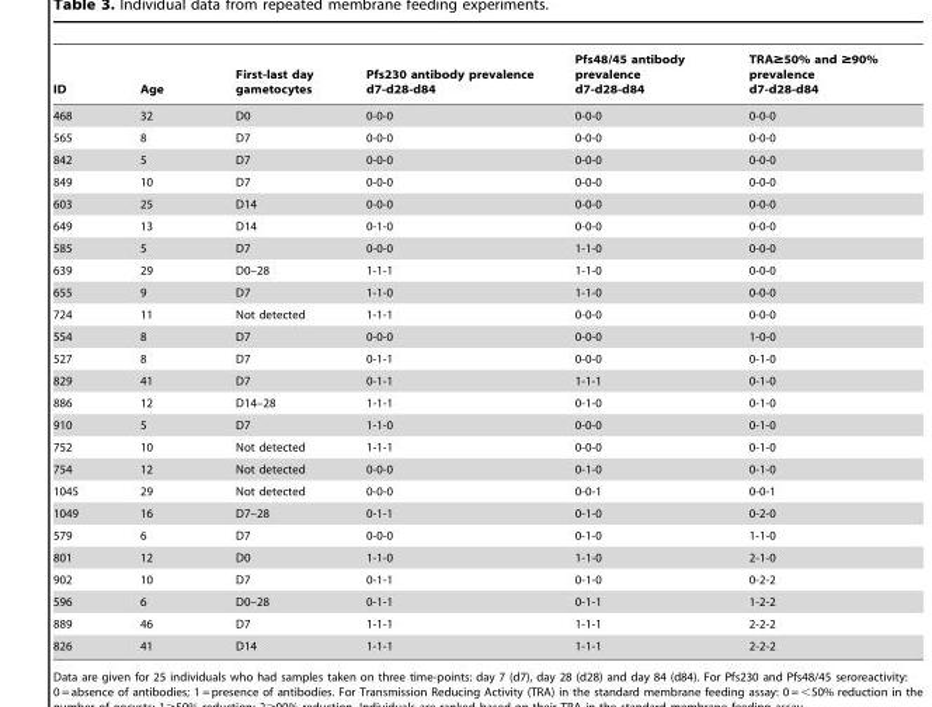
<table><thead><tr><td>ID</td><td>Age</td><td>First-last day gametocytes</td><td>Pfs230 antibody prevalence d7-d28-d84</td><td>Pfs48/45 antibody prevalence d7-d28-d84</td><td>TRA≥50% and ≥90% prevalence d7-d28-d84</td></tr></thead><tbody><tr><td>468</td><td>32</td><td>D0</td><td>0-0-0</td><td>0-0-0</td><td>0-0-0</td></tr><tr><td>565</td><td>8</td><td>D7</td><td>0-0-0</td><td>0-0-0</td><td>0-0-0</td></tr><tr><td>842</td><td>5</td><td>D7</td><td>0-0-0</td><td>0-0-0</td><td>0-0-0</td></tr><tr><td>849</td><td>10</td><td>D7</td><td>0-0-0</td><td>0-0-0</td><td>0-0-0</td></tr><tr><td>603</td><td>25</td><td>D14</td><td>0-0-0</td><td>0-0-0</td><td>0-0-0</td></tr><tr><td>649</td><td>13</td><td>D14</td><td>0-1-0</td><td>0-0-0</td><td>0-0-0</td></tr><tr><td>585</td><td>5</td><td>D7</td><td>0-0-0</td><td>1-1-0</td><td>0-0-0</td></tr><tr><td>639</td><td>29</td><td>D0–28</td><td>1-1-1</td><td>1-1-0</td><td>0-0-0</td></tr><tr><td>655</td><td>9</td><td>D7</td><td>1-1-0</td><td>1-1-0</td><td>0-0-0</td></tr><tr><td>724</td><td>11</td><td>Not detected</td><td>1-1-1</td><td>0-0-0</td><td>0-0-0</td></tr><tr><td>554</td><td>8</td><td>D7</td><td>0-0-0</td><td>0-0-0</td><td>1-0-0</td></tr><tr><td>527</td><td>8</td><td>D7</td><td>0-1-1</td><td>0-0-0</td><td>0-1-0</td></tr><tr><td>829</td><td>41</td><td>D7</td><td>0-1-1</td><td>1-1-1</td><td>0-1-0</td></tr><tr><td>886</td><td>12</td><td>D14–28</td><td>1-1-1</td><td>0-1-0</td><td>0-1-0</td></tr><tr><td>910</td><td>5</td><td>D7</td><td>1-1-0</td><td>0-0-0</td><td>0-1-0</td></tr><tr><td>752</td><td>10</td><td>Not detected</td><td>1-1-1</td><td>0-0-0</td><td>0-1-0</td></tr><tr><td>754</td><td>12</td><td>Not detected</td><td>0-0-0</td><td>0-1-0</td><td>0-1-0</td></tr><tr><td>1045</td><td>29</td><td>Not detected</td><td>0-0-0</td><td>0-0-1</td><td>0-0-1</td></tr><tr><td>1049</td><td>16</td><td>D7–28</td><td>0-1-1</td><td>0-1-0</td><td>0-2-0</td></tr><tr><td>579</td><td>6</td><td>D7</td><td>0-0-0</td><td>0-1-0</td><td>1-1-0</td></tr><tr><td>801</td><td>12</td><td>D0</td><td>1-1-0</td><td>1-1-0</td><td>2-1-0</td></tr><tr><td>902</td><td>10</td><td>D7</td><td>0-1-1</td><td>0-1-0</td><td>0-2-2</td></tr><tr><td>596</td><td>6</td><td>D0–28</td><td>0-1-1</td><td>0-1-1</td><td>1-2-2</td></tr><tr><td>889</td><td>46</td><td>D7</td><td>1-1-1</td><td>1-1-1</td><td>2-2-2</td></tr><tr><td>826</td><td>41</td><td>D14</td><td>1-1-1</td><td>1-1-1</td><td>2-2-2</td></tr></tbody></table>